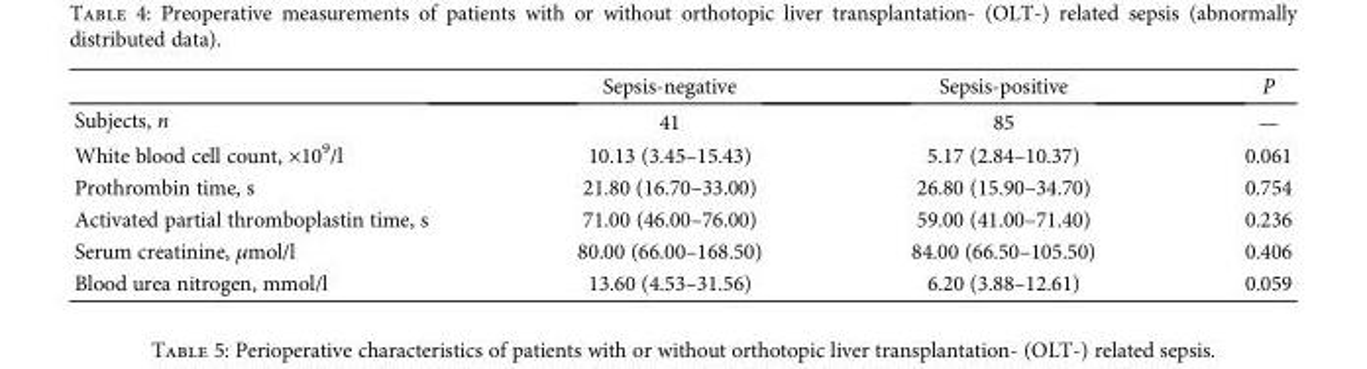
<table><thead><tr><td></td><td>Sepsis-negative</td><td>Sepsis-positive</td><td>P</td></tr></thead><tbody><tr><td>Subjects, n</td><td>41</td><td>85</td><td>—</td></tr><tr><td>White blood cell count, ×10<sup>9</sup>/l</td><td>10.13 (3.45–15.43)</td><td>5.17 (2.84–10.37)</td><td>0.061</td></tr><tr><td>Prothrombin time, s</td><td>21.80 (16.70–33.00)</td><td>26.80 (15.90–34.70)</td><td>0.754</td></tr><tr><td>Activated partial thromboplastin time, s</td><td>71.00 (46.00–76.00)</td><td>59.00 (41.00–71.40)</td><td>0.236</td></tr><tr><td>Serum creatinine, μmol/l</td><td>80.00 (66.00–168.50)</td><td>84.00 (66.50–105.50)</td><td>0.406</td></tr><tr><td>Blood urea nitrogen, mmol/l</td><td>13.60 (4.53–31.56)</td><td>6.20 (3.88–12.61)</td><td>0.059</td></tr></tbody></table>